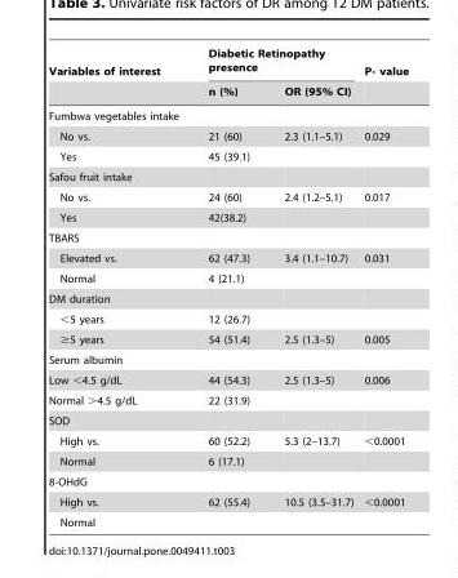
<table><thead><tr><td rowspan="2">Variables of interest</td><td colspan="2">Diabetic Retinopathy presence</td><td rowspan="2">P- value</td></tr><tr><td>n (%)</td><td>OR (95% CI)</td></tr></thead><tbody><tr><td colspan="4">Fumbwa vegetables intake</td></tr><tr><td>No vs.</td><td>21 (60)</td><td>2.3 (1.1–5.1)</td><td>0.029</td></tr><tr><td>Yes</td><td>45 (39.1)</td><td></td><td></td></tr><tr><td colspan="4">Safou fruit intake</td></tr><tr><td>No vs.</td><td>24 (60)</td><td>2.4 (1.2–5.1)</td><td>0.017</td></tr><tr><td>Yes</td><td>42(38.2)</td><td></td><td></td></tr><tr><td colspan="4">TBARS</td></tr><tr><td>Elevated vs.</td><td>62 (47.3)</td><td>3.4 (1.1–10.7)</td><td>0.031</td></tr><tr><td>Normal</td><td>4 (21.1)</td><td></td><td></td></tr><tr><td colspan="4">DM duration</td></tr><tr><td>&lt;5 years</td><td>12 (26.7)</td><td></td><td></td></tr><tr><td>≥5 years</td><td>54 (51.4)</td><td>2.5 (1.3–5)</td><td>0.005</td></tr><tr><td colspan="4">Serum albumin</td></tr><tr><td>Low &lt;4.5 g/dL</td><td>44 (54.3)</td><td>2.5 (1.3–5)</td><td>0.006</td></tr><tr><td>Normal &gt;4.5 g/dL</td><td>22 (31.9)</td><td></td><td></td></tr><tr><td colspan="4">SOD</td></tr><tr><td>High vs.</td><td>60 (52.2)</td><td>5.3 (2–13.7)</td><td>&lt;0.0001</td></tr><tr><td>Normal</td><td>6 (17.1)</td><td></td><td></td></tr><tr><td colspan="4">8-OHdG</td></tr><tr><td>High vs.</td><td>62 (55.4)</td><td>10.5 (3.5–31.7)</td><td>&lt;0.0001</td></tr><tr><td>Normal</td><td></td><td></td><td></td></tr></tbody></table>